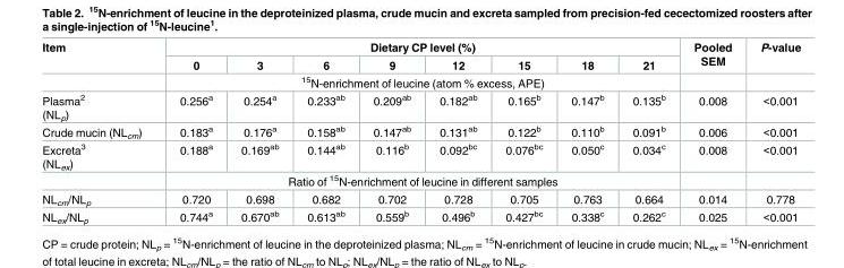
<table><thead><tr><td rowspan="2">Item</td><td colspan="8">Dietary CP level (%)</td><td rowspan="2">Pooled SEM</td><td rowspan="2">P-value</td></tr><tr><td>0</td><td>3</td><td>6</td><td>9</td><td>12</td><td>15</td><td>18</td><td>21</td></tr></thead><tbody><tr><td></td><td colspan="8"><sup>15</sup>N-enrichment of leucine (atom % excess, APE)</td><td></td><td></td></tr><tr><td>Plasma<sup>2</sup> (NL<sub>p</sub>)</td><td>0.256<sup>a</sup></td><td>0.254<sup>a</sup></td><td>0.233<sup>ab</sup></td><td>0.209<sup>ab</sup></td><td>0.182<sup>ab</sup></td><td>0.165<sup>b</sup></td><td>0.147<sup>b</sup></td><td>0.135<sup>b</sup></td><td>0.008</td><td>&lt;0.001</td></tr><tr><td>Crude mucin (NL<sub>cm</sub>)</td><td>0.183<sup>a</sup></td><td>0.176<sup>a</sup></td><td>0.158<sup>ab</sup></td><td>0.147<sup>ab</sup></td><td>0.131<sup>ab</sup></td><td>0.122<sup>b</sup></td><td>0.110<sup>b</sup></td><td>0.091<sup>b</sup></td><td>0.006</td><td>&lt;0.001</td></tr><tr><td rowspan="2">Excreta<sup>3</sup> (NL<sub>ex</sub>)</td><td>0.188<sup>a</sup></td><td>0.169<sup>ab</sup></td><td>0.144<sup>ab</sup></td><td>0.116<sup>b</sup></td><td>0.092<sup>bc</sup></td><td>0.076<sup>bc</sup></td><td>0.050<sup>c</sup></td><td>0.034<sup>c</sup></td><td>0.008</td><td>&lt;0.001</td></tr><tr><td colspan="8">Ratio of <sup>15</sup>N-enrichment of leucine in different samples</td><td></td><td></td></tr><tr><td>NL<sub>cm</sub>/NL<sub>p</sub></td><td>0.720</td><td>0.698</td><td>0.682</td><td>0.702</td><td>0.728</td><td>0.705</td><td>0.763</td><td>0.664</td><td>0.014</td><td>0.778</td></tr><tr><td>NL<sub>ex</sub>/NL<sub>p</sub></td><td>0.744<sup>a</sup></td><td>0.670<sup>ab</sup></td><td>0.613<sup>ab</sup></td><td>0.559<sup>b</sup></td><td>0.496<sup>b</sup></td><td>0.427<sup>bc</sup></td><td>0.338<sup>c</sup></td><td>0.262<sup>c</sup></td><td>0.025</td><td>&lt;0.001</td></tr></tbody></table>